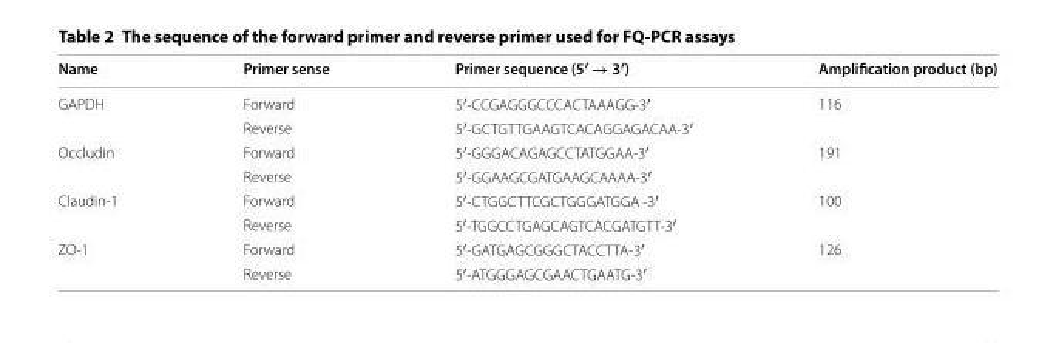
<table><thead><tr><td>Name</td><td>Primer sense</td><td>Primer sequence (5′ → 3′)</td><td>Amplification product (bp)</td></tr></thead><tbody><tr><td rowspan="2">GAPDH</td><td>Forward</td><td>5′-CCGAGGGCCCACTAAAGG-3′</td><td rowspan="2">116</td></tr><tr><td>Reverse</td><td>5′-GCTGTTGAAGTCACAGGAGACAA-3′</td></tr><tr><td rowspan="2">Occludin</td><td>Forward</td><td>5′-GGGACAGAGCCTATGGAA-3′</td><td rowspan="2">191</td></tr><tr><td>Reverse</td><td>5′-GGAAGCGATGAAGCAAAA-3′</td></tr><tr><td rowspan="2">Claudin-1</td><td>Forward</td><td>5′-CTGGCTTCGCTGGGATGGA -3′</td><td rowspan="2">100</td></tr><tr><td>Reverse</td><td>5′-TGGCCTGAGCAGTCACGATGTT-3′</td></tr><tr><td rowspan="2">ZO-1</td><td>Forward</td><td>5′-GATGAGCGGGCTACCTTA-3′</td><td rowspan="2">126</td></tr><tr><td>Reverse</td><td>5′-ATGGGAGCGAACTGAATG-3′</td></tr></tbody></table>